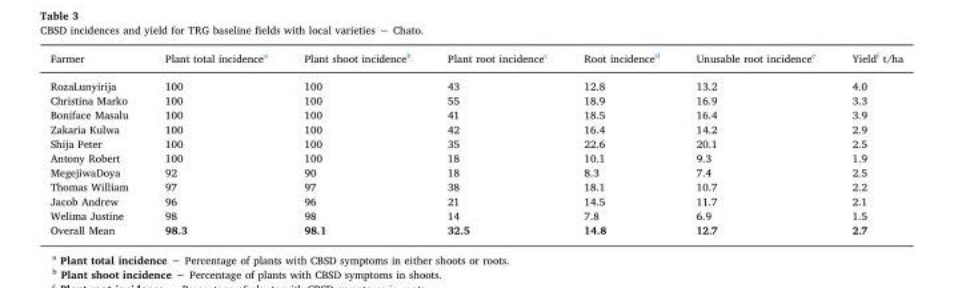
<table><thead><tr><td>Farmer</td><td>Plant total incidence<sup>a</sup></td><td>Plant shoot incidence<sup>b</sup></td><td>Plant root incidence<sup>c</sup></td><td>Root incidence<sup>d</sup></td><td>Unusable root incidence<sup>e</sup></td><td>Yield<sup>f</sup> t/ha</td></tr></thead><tbody><tr><td>RozaLunyirija</td><td>100</td><td>100</td><td>43</td><td>12.8</td><td>13.2</td><td>4.0</td></tr><tr><td>Christina Marko</td><td>100</td><td>100</td><td>55</td><td>18.9</td><td>16.9</td><td>3.3</td></tr><tr><td>Boniface Masalu</td><td>100</td><td>100</td><td>41</td><td>18.5</td><td>16.4</td><td>3.9</td></tr><tr><td>Zakaria Kulwa</td><td>100</td><td>100</td><td>42</td><td>16.4</td><td>14.2</td><td>2.9</td></tr><tr><td>Shija Peter</td><td>100</td><td>100</td><td>35</td><td>22.6</td><td>20.1</td><td>2.5</td></tr><tr><td>Antony Robert</td><td>100</td><td>100</td><td>18</td><td>10.1</td><td>9.3</td><td>1.9</td></tr><tr><td>MegejiwaDoya</td><td>92</td><td>90</td><td>18</td><td>8.3</td><td>7.4</td><td>2.5</td></tr><tr><td>Thomas William</td><td>97</td><td>97</td><td>38</td><td>18.1</td><td>10.7</td><td>2.2</td></tr><tr><td>Jacob Andrew</td><td>96</td><td>96</td><td>21</td><td>14.5</td><td>11.7</td><td>2.1</td></tr><tr><td>Welima Justine</td><td>98</td><td>98</td><td>14</td><td>7.8</td><td>6.9</td><td>1.5</td></tr><tr><td>Overall Mean</td><td>98.3</td><td>98.1</td><td>32.5</td><td>14.8</td><td>12.7</td><td>2.7</td></tr></tbody></table>